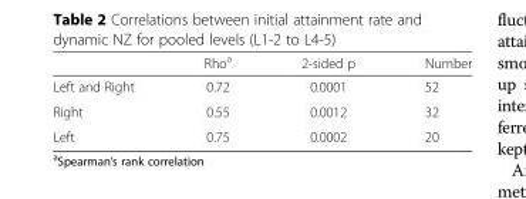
<table><thead><tr><td></td><td>Rho<sup>a</sup></td><td>2-sided p</td><td>Number</td></tr></thead><tbody><tr><td>Left and Right</td><td>0.72</td><td>0.0001</td><td>52</td></tr><tr><td>Right</td><td>0.55</td><td>0.0012</td><td>32</td></tr><tr><td>Left</td><td>0.75</td><td>0.0002</td><td>20</td></tr></tbody></table>